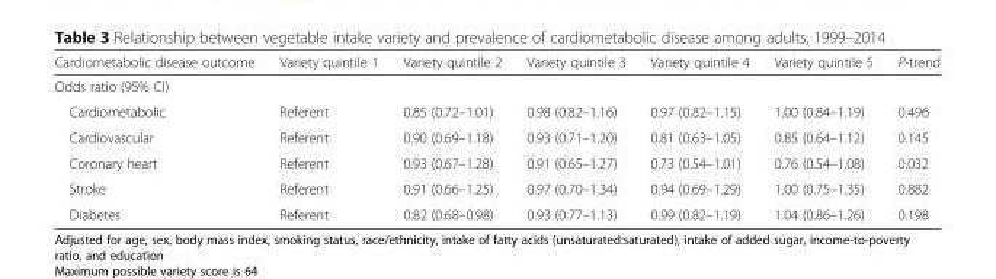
<table><thead><tr><td>Cardiometabolic disease outcome</td><td>Variety quintile 1</td><td>Variety quintile 2</td><td>Variety quintile 3</td><td>Variety quintile 4</td><td>Variety quintile 5</td><td>P-trend</td></tr></thead><tbody><tr><td colspan="7">Odds ratio (95% CI)</td></tr><tr><td>Cardiometabolic</td><td>Referent</td><td>0.85 (0.72–1.01)</td><td>0.98 (0.82–1.16)</td><td>0.97 (0.82–1.15)</td><td>1.00 (0.84–1.19)</td><td>0.496</td></tr><tr><td>Cardiovascular</td><td>Referent</td><td>0.90 (0.69–1.18)</td><td>0.93 (0.71–1.20)</td><td>0.81 (0.63–1.05)</td><td>0.85 (0.64–1.12)</td><td>0.145</td></tr><tr><td>Coronary heart</td><td>Referent</td><td>0.93 (0.67–1.28)</td><td>0.91 (0.65–1.27)</td><td>0.73 (0.54–1.01)</td><td>0.76 (0.54–1.08)</td><td>0.032</td></tr><tr><td>Stroke</td><td>Referent</td><td>0.91 (0.66–1.25)</td><td>0.97 (0.70–1.34)</td><td>0.94 (0.69–1.29)</td><td>1.00 (0.75–1.35)</td><td>0.882</td></tr><tr><td>Diabetes</td><td>Referent</td><td>0.82 (0.68–0.98)</td><td>0.93 (0.77–1.13)</td><td>0.99 (0.82–1.19)</td><td>1.04 (0.86–1.26)</td><td>0.198</td></tr></tbody></table>